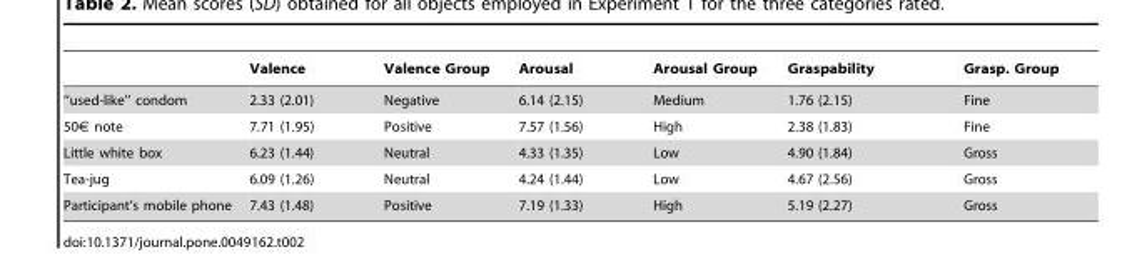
<table><thead><tr><td></td><td>Valence</td><td>Valence Group</td><td>Arousal</td><td>Arousal Group</td><td>Graspability</td><td>Grasp. Group</td></tr></thead><tbody><tr><td>‘‘used-like’’ condom</td><td>2.33 (2.01)</td><td>Negative</td><td>6.14 (2.15)</td><td>Medium</td><td>1.76 (2.15)</td><td>Fine</td></tr><tr><td>50€ note</td><td>7.71 (1.95)</td><td>Positive</td><td>7.57 (1.56)</td><td>High</td><td>2.38 (1.83)</td><td>Fine</td></tr><tr><td>Little white box</td><td>6.23 (1.44)</td><td>Neutral</td><td>4.33 (1.35)</td><td>Low</td><td>4.90 (1.84)</td><td>Gross</td></tr><tr><td>Tea-jug</td><td>6.09 (1.26)</td><td>Neutral</td><td>4.24 (1.44)</td><td>Low</td><td>4.67 (2.56)</td><td>Gross</td></tr><tr><td>Participant’s mobile phone</td><td>7.43 (1.48)</td><td>Positive</td><td>7.19 (1.33)</td><td>High</td><td>5.19 (2.27)</td><td>Gross</td></tr></tbody></table>